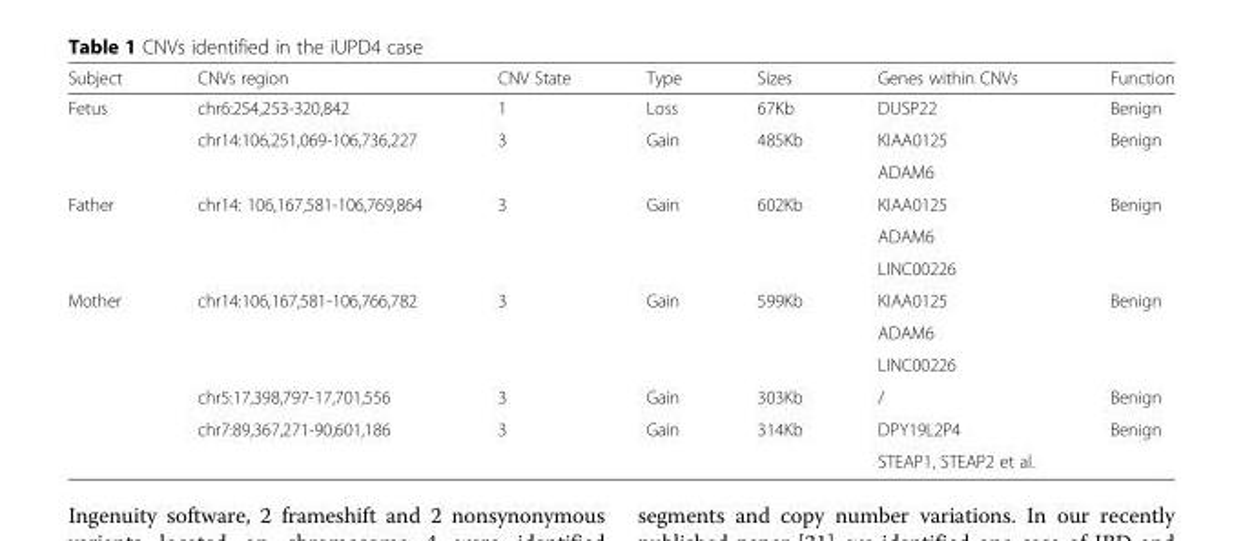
<table><thead><tr><td>Subject</td><td>CNVs region</td><td>CNV State</td><td>Type</td><td>Sizes</td><td>Genes within CNVs</td><td>Function</td></tr></thead><tbody><tr><td rowspan="3">Fetus</td><td>chr6:254,253-320,842</td><td>1</td><td>Loss</td><td>67Kb</td><td>DUSP22</td><td>Benign</td></tr><tr><td rowspan="2">chr14:106,251,069-106,736,227</td><td rowspan="2">3</td><td rowspan="2">Gain</td><td rowspan="2">485Kb</td><td>KIAA0125</td><td rowspan="2">Benign</td></tr><tr><td>ADAM6</td></tr><tr><td rowspan="3">Father</td><td rowspan="3">chr14: 106,167,581-106,769,864</td><td rowspan="3">3</td><td rowspan="3">Gain</td><td rowspan="3">602Kb</td><td>KIAA0125</td><td rowspan="3">Benign</td></tr><tr><td>ADAM6</td></tr><tr><td>LINC00226</td></tr><tr><td rowspan="6">Mother</td><td rowspan="3">chr14:106,167,581-106,766,782</td><td rowspan="3">3</td><td rowspan="3">Gain</td><td rowspan="3">599Kb</td><td>KIAA0125</td><td rowspan="3">Benign</td></tr><tr><td>ADAM6</td></tr><tr><td>LINC00226</td></tr><tr><td>chr5:17,398,797-17,701,556</td><td>3</td><td>Gain</td><td>303Kb</td><td>/</td><td>Benign</td></tr><tr><td rowspan="2">chr7:89,367,271-90,601,186</td><td rowspan="2">3</td><td rowspan="2">Gain</td><td rowspan="2">314Kb</td><td>DPY19L2P4</td><td rowspan="2">Benign</td></tr><tr><td>STEAP1, STEAP2 et al.</td></tr></tbody></table>